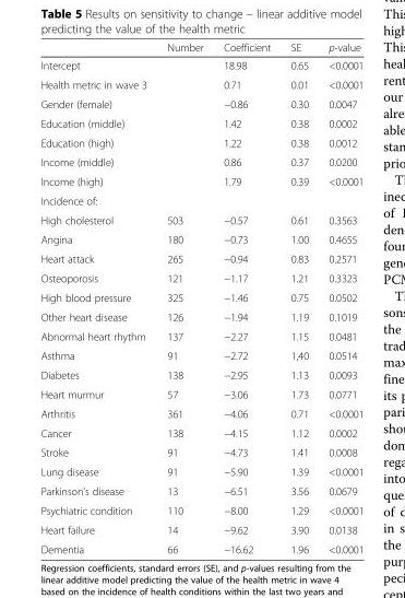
<table><thead><tr><td></td><td>Number</td><td>Coefficient</td><td>SE</td><td>p-value</td></tr></thead><tbody><tr><td>Intercept</td><td></td><td>18.98</td><td>0.65</td><td>&lt;0.0001</td></tr><tr><td>Health metric in wave 3</td><td></td><td>0.71</td><td>0.01</td><td>&lt;0.0001</td></tr><tr><td>Gender (female)</td><td></td><td>−0.86</td><td>0.30</td><td>0.0047</td></tr><tr><td>Education (middle)</td><td></td><td>1.42</td><td>0.38</td><td>0.0002</td></tr><tr><td>Education (high)</td><td></td><td>1.22</td><td>0.38</td><td>0.0012</td></tr><tr><td>Income (middle)</td><td></td><td>0.86</td><td>0.37</td><td>0.0200</td></tr><tr><td>Income (high)</td><td></td><td>1.79</td><td>0.39</td><td>&lt;0.0001</td></tr><tr><td colspan="5">Incidence of:</td></tr><tr><td>High cholesterol</td><td>503</td><td>−0.57</td><td>0.61</td><td>0.3563</td></tr><tr><td>Angina</td><td>180</td><td>−0.73</td><td>1.00</td><td>0.4655</td></tr><tr><td>Heart attack</td><td>265</td><td>−0.94</td><td>0.83</td><td>0.2571</td></tr><tr><td>Osteoporosis</td><td>121</td><td>−1.17</td><td>1.21</td><td>0.3323</td></tr><tr><td>High blood pressure</td><td>325</td><td>−1.46</td><td>0.75</td><td>0.0502</td></tr><tr><td>Other heart disease</td><td>126</td><td>−1.94</td><td>1.19</td><td>0.1019</td></tr><tr><td>Abnormal heart rhythm</td><td>137</td><td>−2.27</td><td>1.15</td><td>0.0481</td></tr><tr><td>Asthma</td><td>91</td><td>−2.72</td><td>1,40</td><td>0.0514</td></tr><tr><td>Diabetes</td><td>138</td><td>−2.95</td><td>1.13</td><td>0.0093</td></tr><tr><td>Heart murmur</td><td>57</td><td>−3.06</td><td>1.73</td><td>0.0771</td></tr><tr><td>Arthritis</td><td>361</td><td>−4.06</td><td>0.71</td><td>&lt;0.0001</td></tr><tr><td>Cancer</td><td>138</td><td>−4.15</td><td>1.12</td><td>0.0002</td></tr><tr><td>Stroke</td><td>91</td><td>−4.73</td><td>1.41</td><td>0.0008</td></tr><tr><td>Lung disease</td><td>91</td><td>−5.90</td><td>1.39</td><td>&lt;0.0001</td></tr><tr><td>Parkinson’s disease</td><td>13</td><td>−6.51</td><td>3.56</td><td>0.0679</td></tr><tr><td>Psychiatric condition</td><td>110</td><td>−8.00</td><td>1.29</td><td>&lt;0.0001</td></tr><tr><td>Heart failure</td><td>14</td><td>−9.62</td><td>3.90</td><td>0.0138</td></tr><tr><td>Dementia</td><td>66</td><td>−16.62</td><td>1.96</td><td>&lt;0.0001</td></tr></tbody></table>